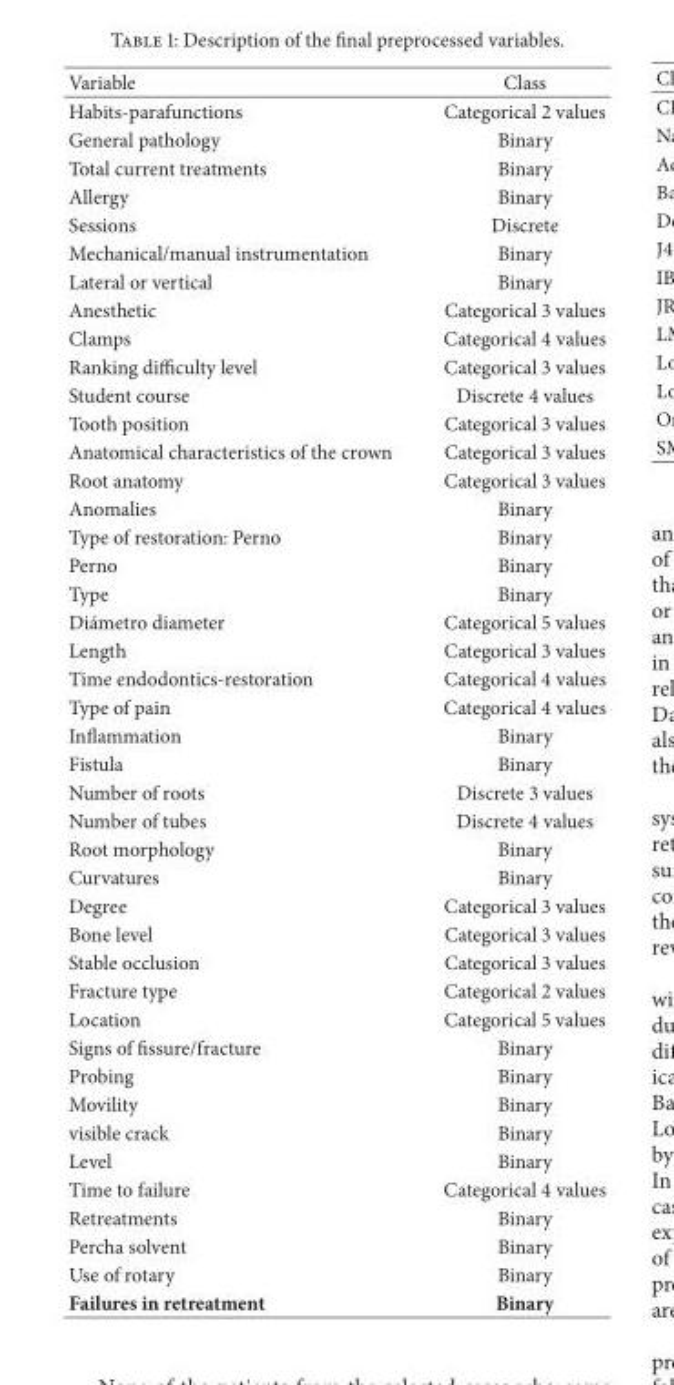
<table><thead><tr><td>Variable</td><td>Class</td></tr></thead><tbody><tr><td>Habits-parafunctions</td><td>Categorical 2 values</td></tr><tr><td>General pathology</td><td>Binary</td></tr><tr><td>Total current treatments</td><td>Binary</td></tr><tr><td>Allergy</td><td>Binary</td></tr><tr><td>Sessions</td><td>Discrete</td></tr><tr><td>Mechanical/manual instrumentation</td><td>Binary</td></tr><tr><td>Lateral or vertical</td><td>Binary</td></tr><tr><td>Anesthetic</td><td>Categorical 3 values</td></tr><tr><td>Clamps</td><td>Categorical 4 values</td></tr><tr><td>Ranking difficulty level</td><td>Categorical 3 values</td></tr><tr><td>Student course</td><td>Discrete 4 values</td></tr><tr><td>Tooth position</td><td>Categorical 3 values</td></tr><tr><td>Anatomical characteristics of the crown</td><td>Categorical 3 values</td></tr><tr><td>Root anatomy</td><td>Categorical 3 values</td></tr><tr><td>Anomalies</td><td>Binary</td></tr><tr><td>Type of restoration: Perno</td><td>Binary</td></tr><tr><td>Perno</td><td>Binary</td></tr><tr><td>Type</td><td>Binary</td></tr><tr><td>Di´ametro diameter</td><td>Categorical 5 values</td></tr><tr><td>Length</td><td>Categorical 3 values</td></tr><tr><td>Time endodontics-restoration</td><td>Categorical 4 values</td></tr><tr><td>Type of pain</td><td>Categorical 4 values</td></tr><tr><td>Inflammation</td><td>Binary</td></tr><tr><td>Fistula</td><td>Binary</td></tr><tr><td>Number of roots</td><td>Discrete 3 values</td></tr><tr><td>Number of tubes</td><td>Discrete 4 values</td></tr><tr><td>Root morphology</td><td>Binary</td></tr><tr><td>Curvatures</td><td>Binary</td></tr><tr><td>Degree</td><td>Categorical 3 values</td></tr><tr><td>Bone level</td><td>Categorical 3 values</td></tr><tr><td>Stable occlusion</td><td>Categorical 3 values</td></tr><tr><td>Fracture type</td><td>Categorical 2 values</td></tr><tr><td>Location</td><td>Categorical 5 values</td></tr><tr><td>Signs of fissure/fracture</td><td>Binary</td></tr><tr><td>Probing</td><td>Binary</td></tr><tr><td>Movility</td><td>Binary</td></tr><tr><td>visible crack</td><td>Binary</td></tr><tr><td>Level</td><td>Binary</td></tr><tr><td>Time to failure</td><td>Categorical 4 values</td></tr><tr><td>Retreatments</td><td>Binary</td></tr><tr><td>Percha solvent</td><td>Binary</td></tr><tr><td>Use of rotary</td><td>Binary</td></tr><tr><td>Failures in retreatment</td><td>Binary</td></tr></tbody></table>